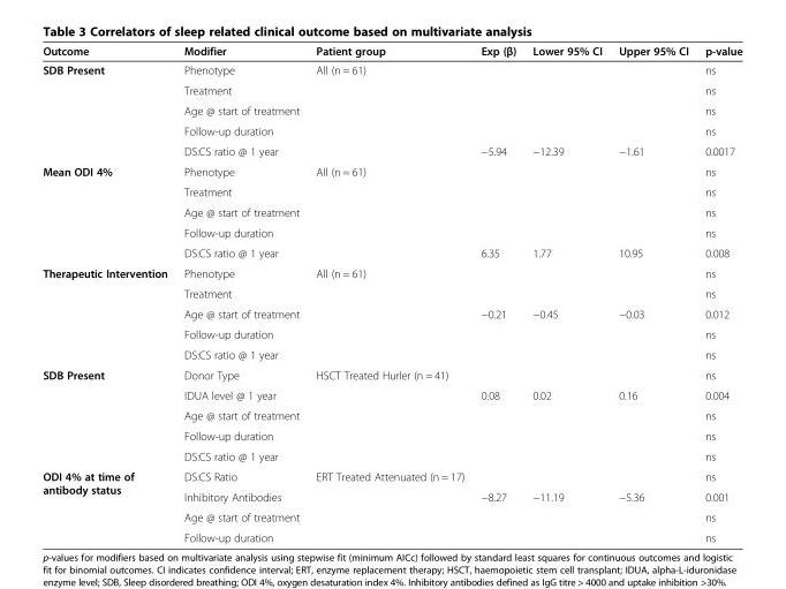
<table><thead><tr><td>Outcome</td><td>Modifier</td><td>Patient group</td><td>Exp (β)</td><td>Lower 95% CI</td><td>Upper 95% CI</td><td>p-value</td></tr></thead><tbody><tr><td rowspan="5">SDB Present</td><td>Phenotype</td><td rowspan="5">All (n = 61)</td><td></td><td></td><td></td><td>ns</td></tr><tr><td>Treatment</td><td></td><td></td><td></td><td>ns</td></tr><tr><td>Age @ start of treatment</td><td></td><td></td><td></td><td>ns</td></tr><tr><td>Follow-up duration</td><td></td><td></td><td></td><td>ns</td></tr><tr><td>DS:CS ratio @ 1 year</td><td>−5.94</td><td>−12.39</td><td>−1.61</td><td>0.0017</td></tr><tr><td rowspan="5">Mean ODI 4%</td><td>Phenotype</td><td rowspan="5">All (n = 61)</td><td></td><td></td><td></td><td>ns</td></tr><tr><td>Treatment</td><td></td><td></td><td></td><td>ns</td></tr><tr><td>Age @ start of treatment</td><td></td><td></td><td></td><td>ns</td></tr><tr><td>Follow-up duration</td><td></td><td></td><td></td><td>ns</td></tr><tr><td>DS:CS ratio @ 1 year</td><td>6.35</td><td>1.77</td><td>10.95</td><td>0.008</td></tr><tr><td rowspan="5">Therapeutic Intervention</td><td>Phenotype</td><td rowspan="5">All (n = 61)</td><td></td><td></td><td></td><td>ns</td></tr><tr><td>Treatment</td><td></td><td></td><td></td><td>ns</td></tr><tr><td>Age @ start of treatment</td><td>−0.21</td><td>−0.45</td><td>−0.03</td><td>0.012</td></tr><tr><td>Follow-up duration</td><td></td><td></td><td></td><td>ns</td></tr><tr><td>DS:CS ratio @ 1 year</td><td></td><td></td><td></td><td>ns</td></tr><tr><td rowspan="5">SDB Present</td><td>Donor Type</td><td rowspan="5">HSCT Treated Hurler (n = 41)</td><td></td><td></td><td></td><td>ns</td></tr><tr><td>IDUA level @ 1 year</td><td>0.08</td><td>0.02</td><td>0.16</td><td>0.004</td></tr><tr><td>Age @ start of treatment</td><td></td><td></td><td></td><td>ns</td></tr><tr><td>Follow-up duration</td><td></td><td></td><td></td><td>ns</td></tr><tr><td>DS:CS ratio @ 1 year</td><td></td><td></td><td></td><td>ns</td></tr><tr><td rowspan="4">ODI 4% at time of antibody status</td><td>DS:CS Ratio</td><td rowspan="4">ERT Treated Attenuated (n = 17)</td><td></td><td></td><td></td><td>ns</td></tr><tr><td>Inhibitory Antibodies</td><td>−8.27</td><td>−11.19</td><td>−5.36</td><td>0.001</td></tr><tr><td>Age @ start of treatment</td><td></td><td></td><td></td><td>ns</td></tr><tr><td>Follow-up duration</td><td></td><td></td><td></td><td>ns</td></tr></tbody></table>